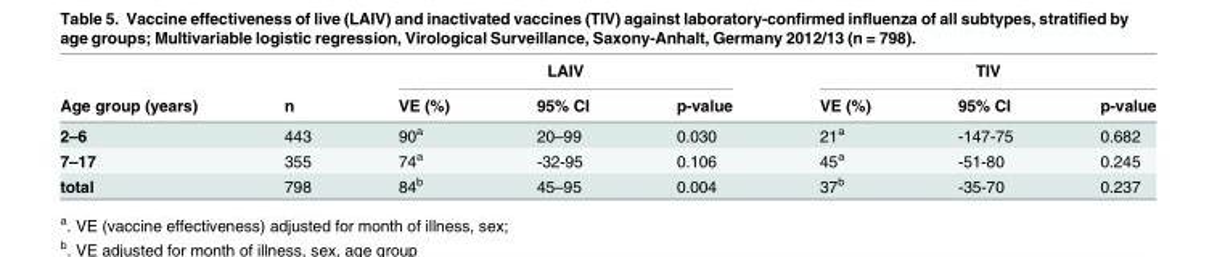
<table><thead><tr><td rowspan="2">Age group (years)</td><td rowspan="2">n</td><td colspan="3">LAIV</td><td colspan="3">TIV</td></tr><tr><td>VE (%)</td><td>95% CI</td><td>p-value</td><td>VE (%)</td><td>95% CI</td><td>p-value</td></tr></thead><tbody><tr><td>2–6</td><td>443</td><td>90<sup>a</sup></td><td>20–99</td><td>0.030</td><td>21<sup>a</sup></td><td>-147-75</td><td>0.682</td></tr><tr><td>7–17</td><td>355</td><td>74<sup>a</sup></td><td>-32-95</td><td>0.106</td><td>45<sup>a</sup></td><td>-51-80</td><td>0.245</td></tr><tr><td>total</td><td>798</td><td>84<sup>b</sup></td><td>45–95</td><td>0.004</td><td>37<sup>b</sup></td><td>-35-70</td><td>0.237</td></tr></tbody></table>